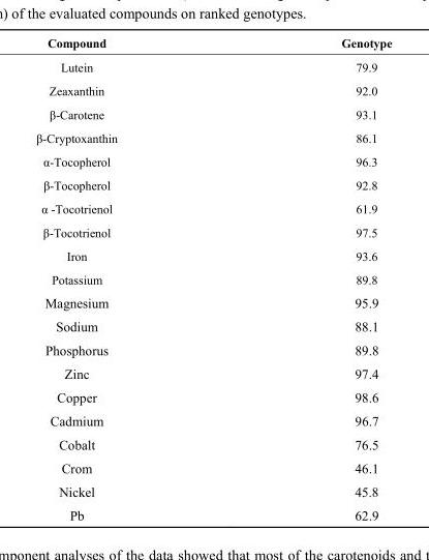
<table><thead><tr><td>Compound</td><td>Genotype</td></tr></thead><tbody><tr><td>Lutein</td><td>79.9</td></tr><tr><td>Zeaxanthin</td><td>92.0</td></tr><tr><td>β-Carotene</td><td>93.1</td></tr><tr><td>β-Cryptoxanthin</td><td>86.1</td></tr><tr><td>α-Tocopherol</td><td>96.3</td></tr><tr><td>β-Tocopherol</td><td>92.8</td></tr><tr><td>α -Tocotrienol</td><td>61.9</td></tr><tr><td>β-Tocotrienol</td><td>97.5</td></tr><tr><td>Iron</td><td>93.6</td></tr><tr><td>Potassium</td><td>89.8</td></tr><tr><td>Magnesium</td><td>95.9</td></tr><tr><td>Sodium</td><td>88.1</td></tr><tr><td>Phosphorus</td><td>89.8</td></tr><tr><td>Zinc</td><td>97.4</td></tr><tr><td>Copper</td><td>98.6</td></tr><tr><td>Cadmium</td><td>96.7</td></tr><tr><td>Cobalt</td><td>76.5</td></tr><tr><td>Crom</td><td>46.1</td></tr><tr><td>Nickel</td><td>45.8</td></tr><tr><td>Pb</td><td>62.9</td></tr></tbody></table>